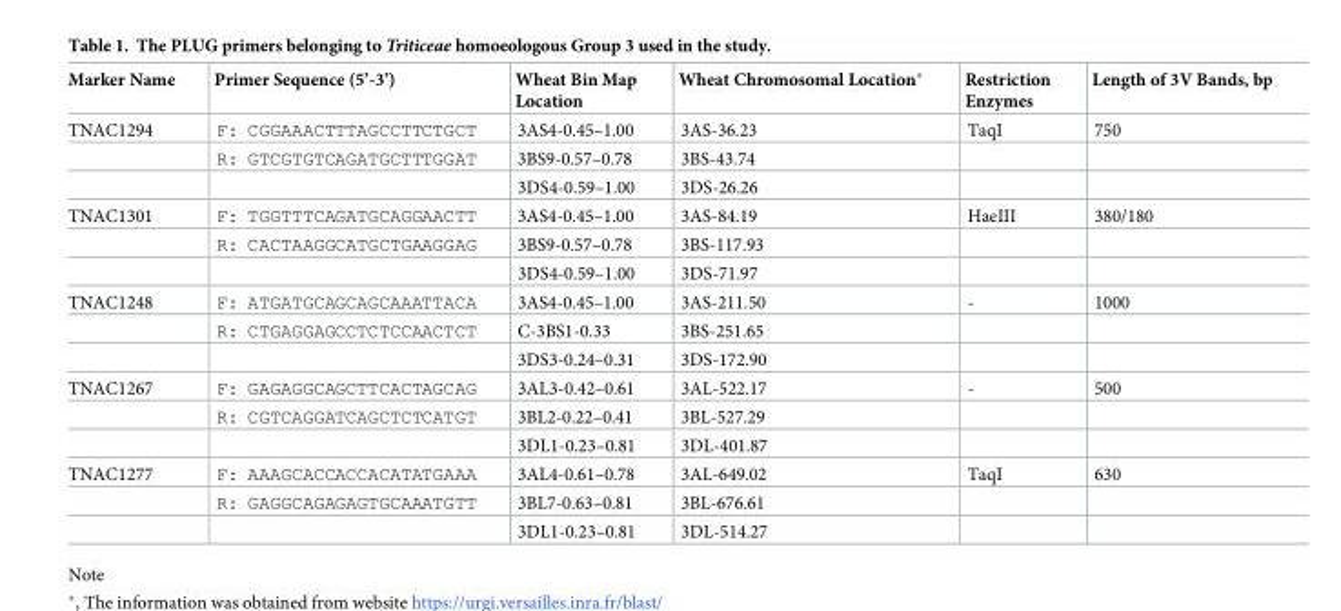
<table><thead><tr><td>Marker Name</td><td>Primer Sequence (5’-3’)</td><td>Wheat Bin Map Location</td><td>Wheat Chromosomal Location*</td><td>Restriction Enzymes</td><td>Length of 3V Bands, bp</td></tr></thead><tbody><tr><td rowspan="3">TNAC1294</td><td>F: CGGAAACTTTAGCCTTCTGCT</td><td>3AS4-0.45–1.00</td><td>3AS-36.23</td><td>TaqI</td><td>750</td></tr><tr><td>R: GTCGTGTCAGATGCTTTGGAT</td><td>3BS9-0.57–0.78</td><td>3BS-43.74</td><td></td><td></td></tr><tr><td></td><td>3DS4-0.59–1.00</td><td>3DS-26.26</td><td></td><td></td></tr><tr><td rowspan="3">TNAC1301</td><td>F: TGGTTTCAGATGCAGGAACTT</td><td>3AS4-0.45–1.00</td><td>3AS-84.19</td><td>HaeIII</td><td>380/180</td></tr><tr><td>R: CACTAAGGCATGCTGAAGGAG</td><td>3BS9-0.57–0.78</td><td>3BS-117.93</td><td></td><td></td></tr><tr><td></td><td>3DS4-0.59–1.00</td><td>3DS-71.97</td><td></td><td></td></tr><tr><td rowspan="3">TNAC1248</td><td>F: ATGATGCAGCAGCAAATTACA</td><td>3AS4-0.45–1.00</td><td>3AS-211.50</td><td>-</td><td>1000</td></tr><tr><td>R: CTGAGGAGCCTCTCCAACTCT</td><td>C-3BS1-0.33</td><td>3BS-251.65</td><td></td><td></td></tr><tr><td></td><td>3DS3-0.24–0.31</td><td>3DS-172.90</td><td></td><td></td></tr><tr><td rowspan="3">TNAC1267</td><td>F: GAGAGGCAGCTTCACTAGCAG</td><td>3AL3-0.42–0.61</td><td>3AL-522.17</td><td>-</td><td>500</td></tr><tr><td>R: CGTCAGGATCAGCTCTCATGT</td><td>3BL2-0.22–0.41</td><td>3BL-527.29</td><td></td><td></td></tr><tr><td></td><td>3DL1-0.23–0.81</td><td>3DL-401.87</td><td></td><td></td></tr><tr><td rowspan="3">TNAC1277</td><td>F: AAAGCACCACCACATATGAAA</td><td>3AL4-0.61–0.78</td><td>3AL-649.02</td><td>TaqI</td><td>630</td></tr><tr><td>R: GAGGCAGAGAGTGCAAATGTT</td><td>3BL7-0.63–0.81</td><td>3BL-676.61</td><td></td><td></td></tr><tr><td></td><td>3DL1-0.23–0.81</td><td>3DL-514.27</td><td></td><td></td></tr></tbody></table>